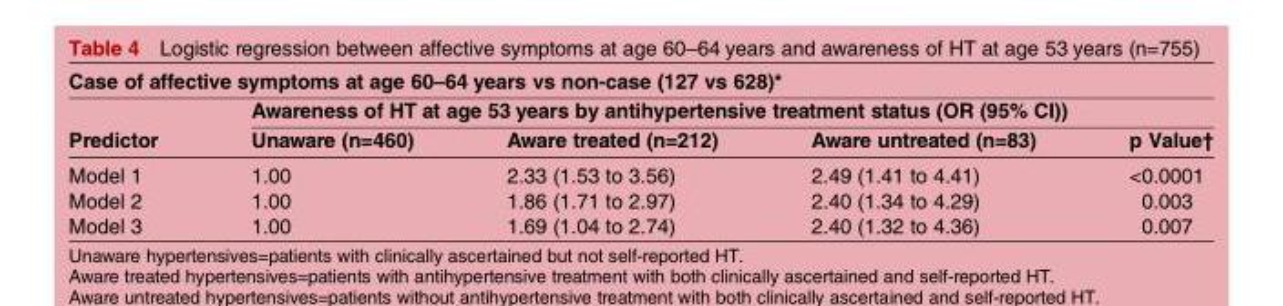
<table><thead><tr><td colspan="5">Case of affective symptoms at age 60–64 years vs non-case (127 vs 628)*</td></tr><tr><td rowspan="2">Predictor</td><td colspan="4">Awareness of HT at age 53 years by antihypertensive treatment status (OR (95% CI))</td></tr><tr><td>Unaware (n=460)</td><td>Aware treated (n=212)</td><td>Aware untreated (n=83)</td><td>p Value†</td></tr></thead><tbody><tr><td>Model 1</td><td>1.00</td><td>2.33 (1.53 to 3.56)</td><td>2.49 (1.41 to 4.41)</td><td>&lt;0.0001</td></tr><tr><td>Model 2</td><td>1.00</td><td>1.86 (1.71 to 2.97)</td><td>2.40 (1.34 to 4.29)</td><td>0.003</td></tr><tr><td>Model 3</td><td>1.00</td><td>1.69 (1.04 to 2.74)</td><td>2.40 (1.32 to 4.36)</td><td>0.007</td></tr></tbody></table>